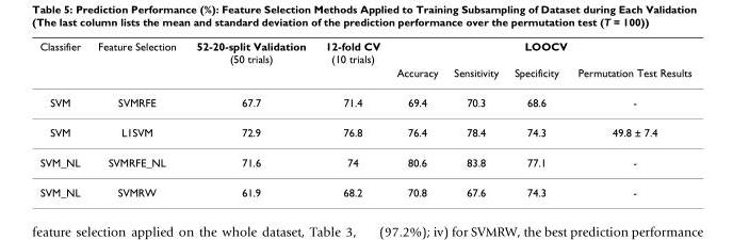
<table><thead><tr><td rowspan="2">Classifier</td><td rowspan="2">Feature Selection</td><td rowspan="2">52-20-split Validation (50 trials)</td><td rowspan="2">12-fold CV (10 trials)</td><td colspan="4">LOOCV</td></tr><tr><td>Accuracy</td><td>Sensitivity</td><td>Specificity</td><td>Permutation Test Results</td></tr></thead><tbody><tr><td>SVM</td><td>SVMRFE</td><td>67.7</td><td>71.4</td><td>69.4</td><td>70.3</td><td>68.6</td><td>-</td></tr><tr><td>SVM</td><td>L1SVM</td><td>72.9</td><td>76.8</td><td>76.4</td><td>78.4</td><td>74.3</td><td>49.8 ± 7.4</td></tr><tr><td>SVM_NL</td><td>SVMRFE_NL</td><td>71.6</td><td>74</td><td>80.6</td><td>83.8</td><td>77.1</td><td>-</td></tr><tr><td>SVM_NL</td><td>SVMRW</td><td>61.9</td><td>68.2</td><td>70.8</td><td>67.6</td><td>74.3</td><td>-</td></tr></tbody></table>